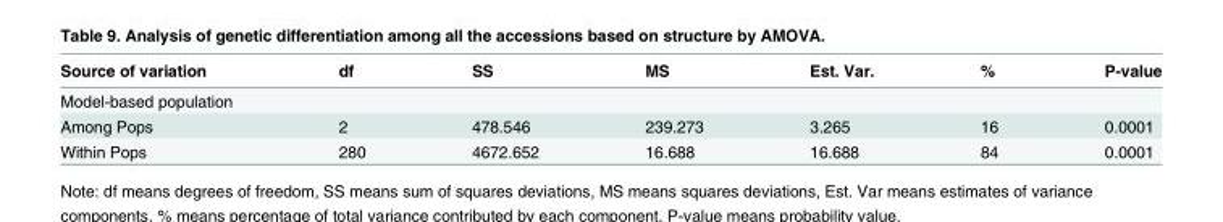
<table><thead><tr><td>Source of variation</td><td>df</td><td>SS</td><td>MS</td><td>Est. Var.</td><td>%</td><td>P-value</td></tr></thead><tbody><tr><td colspan="7">Model-based population</td></tr><tr><td>Among Pops</td><td>2</td><td>478.546</td><td>239.273</td><td>3.265</td><td>16</td><td>0.0001</td></tr><tr><td>Within Pops</td><td>280</td><td>4672.652</td><td>16.688</td><td>16.688</td><td>84</td><td>0.0001</td></tr></tbody></table>